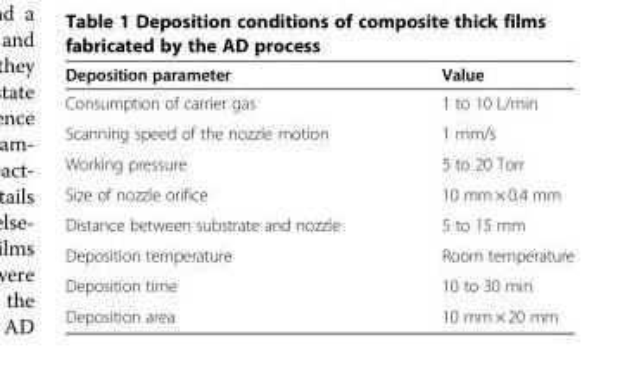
<table><thead><tr><td>Deposition parameter</td><td>Value</td></tr></thead><tbody><tr><td>Consumption of carrier gas</td><td>1 to 10 L/min</td></tr><tr><td>Scanning speed of the nozzle motion</td><td>1 mm/s</td></tr><tr><td>Working pressure</td><td>5 to 20 Torr</td></tr><tr><td>Size of nozzle orifice</td><td>10 mm × 0.4 mm</td></tr><tr><td>Distance between substrate and nozzle</td><td>5 to 15 mm</td></tr><tr><td>Deposition temperature</td><td>Room temperature</td></tr><tr><td>Deposition time</td><td>10 to 30 min</td></tr><tr><td>Deposition area</td><td>10 mm × 20 mm</td></tr></tbody></table>